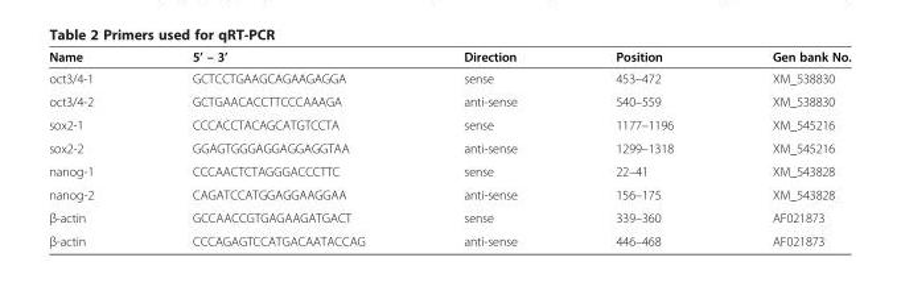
<table><thead><tr><td>Name</td><td>5’ – 3’</td><td>Direction</td><td>Position</td><td>Gen bank No.</td></tr></thead><tbody><tr><td>oct3/4-1</td><td>GCTCCTGAAGCAGAAGAGGA</td><td>sense</td><td>453–472</td><td>XM_538830</td></tr><tr><td>oct3/4-2</td><td>GCTGAACACCTTCCCAAAGA</td><td>anti-sense</td><td>540–559</td><td>XM_538830</td></tr><tr><td>sox2-1</td><td>CCCACCTACAGCATGTCCTA</td><td>sense</td><td>1177–1196</td><td>XM_545216</td></tr><tr><td>sox2-2</td><td>GGAGTGGGAGGAGGAGGTAA</td><td>anti-sense</td><td>1299–1318</td><td>XM_545216</td></tr><tr><td>nanog-1</td><td>CCCAACTCTAGGGACCCTTC</td><td>sense</td><td>22–41</td><td>XM_543828</td></tr><tr><td>nanog-2</td><td>CAGATCCATGGAGGAAGGAA</td><td>anti-sense</td><td>156–175</td><td>XM_543828</td></tr><tr><td>β-actin</td><td>GCCAACCGTGAGAAGATGACT</td><td>sense</td><td>339–360</td><td>AF021873</td></tr><tr><td>β-actin</td><td>CCCAGAGTCCATGACAATACCAG</td><td>anti-sense</td><td>446–468</td><td>AF021873</td></tr></tbody></table>